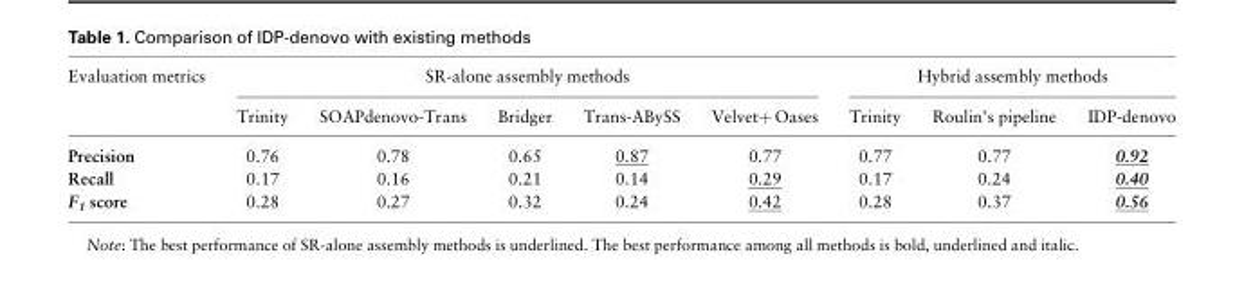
<table><thead><tr><td rowspan="2">Evaluation metrics</td><td colspan="5">SR-alone assembly methods</td><td colspan="3">Hybrid assembly methods</td></tr><tr><td>Trinity</td><td>SOAPdenovo-Trans</td><td>Bridger</td><td>Trans-ABySS</td><td>Velvet+ Oases</td><td>Trinity</td><td>Roulin’s pipeline</td><td>IDP-denovo</td></tr></thead><tbody><tr><td>Precision</td><td>0.76</td><td>0.78</td><td>0.65</td><td>0.87</td><td>0.77</td><td>0.77</td><td>0.77</td><td>0.92</td></tr><tr><td>Recall</td><td>0.17</td><td>0.16</td><td>0.21</td><td>0.14</td><td>0.29</td><td>0.17</td><td>0.24</td><td>0.40</td></tr><tr><td>F<sub>1</sub> score</td><td>0.28</td><td>0.27</td><td>0.32</td><td>0.24</td><td>0.42</td><td>0.28</td><td>0.37</td><td>0.56</td></tr></tbody></table>